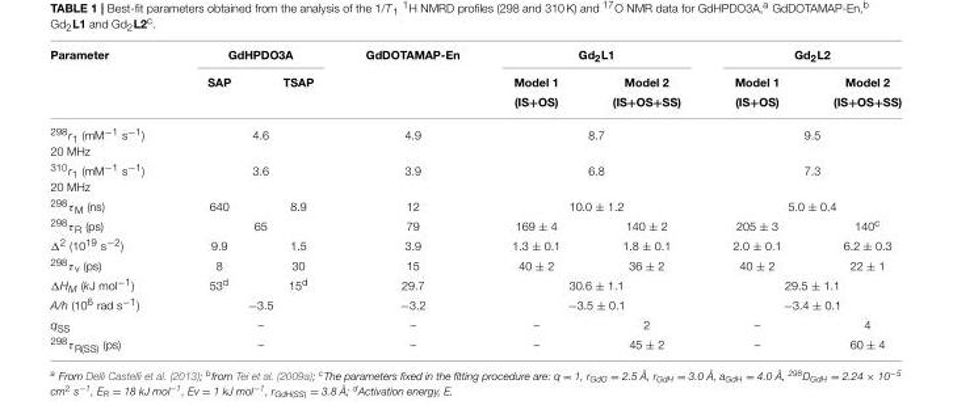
<table><thead><tr><td rowspan="3">Parameter</td><td colspan="2">GdHPDO3A</td><td rowspan="3">GdDOTAMAP-En</td><td colspan="2">Gd<sub>2</sub>L1</td><td colspan="2">Gd<sub>2</sub>L2</td></tr><tr><td rowspan="2">SAP</td><td rowspan="2">TSAP</td><td rowspan="2">Model 1 (IS+OS)</td><td rowspan="2">Model 2 (IS+OS+SS)</td><td rowspan="2">Model 1 (IS+OS)</td><td rowspan="2">Model 2 (IS+OS+SS)</td></tr><tr></tr></thead><tbody><tr><td><sup>298</sup>r<sub>1</sub> (mM<sup>−1</sup> s<sup>−1</sup>) 20 MHz</td><td colspan="2">4.6</td><td>4.9</td><td colspan="2">8.7</td><td colspan="2">9.5</td></tr><tr><td><sup>310</sup>r<sub>1</sub> (mM<sup>−1</sup> s<sup>−1</sup>) 20 MHz</td><td colspan="2">3.6</td><td>3.9</td><td colspan="2">6.8</td><td colspan="2">7.3</td></tr><tr><td><sup>298</sup>τ<sub>M</sub> (ns)</td><td>640</td><td>8.9</td><td>12</td><td colspan="2">10.0 ± 1.2</td><td colspan="2">5.0 ± 0.4</td></tr><tr><td><sup>298</sup>τ<sub>R</sub> (ps)</td><td colspan="2">65</td><td>79</td><td>169 ± 4</td><td>140 ± 2</td><td>205 ± 3</td><td>140<sup>c</sup></td></tr><tr><td>Δ<sup>2</sup> (10<sup>19</sup> s<sup>−2</sup>)</td><td>9.9</td><td>1.5</td><td>3.9</td><td>1.3 ± 0.1</td><td>1.8 ± 0.1</td><td>2.0 ± 0.1</td><td>6.2 ± 0.3</td></tr><tr><td><sup>298</sup>τ<sub>v</sub> (ps)</td><td>8</td><td>30</td><td>15</td><td>40 ± 2</td><td>36 ± 2</td><td>40 ± 2</td><td>22 ± 1</td></tr><tr><td>ΔHM (kJ mol−1)</td><td>53<sup>d</sup></td><td>15<sup>d</sup></td><td>29.7</td><td colspan="2">30.6 ± 1.1</td><td colspan="2">29.5 ± 1.1</td></tr><tr><td>A/h (10<sup>6</sup> rad s<sup>−1</sup>)</td><td colspan="2">−3.5</td><td>−3.2</td><td colspan="2">−3.5 ± 0.1</td><td colspan="2">−3.4 ± 0.1</td></tr><tr><td>q<sub>SS</sub></td><td colspan="2">–</td><td>–</td><td>–</td><td>2</td><td>–</td><td>4</td></tr><tr><td><sup>298</sup>τ<sub>R(SS)</sub> (ps)</td><td colspan="2">–</td><td>–</td><td>–</td><td>45 ± 2</td><td>–</td><td>60 ± 4</td></tr></tbody></table>